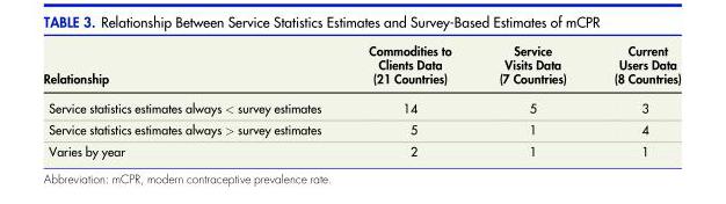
<table><thead><tr><td>Relationship</td><td>Commodities to Clients Data (21 Countries)</td><td>Service Visits Data (7 Countries)</td><td>Current Users Data (8 Countries)</td></tr></thead><tbody><tr><td>Service statistics estimates always &lt; survey estimates</td><td>14</td><td>5</td><td>3</td></tr><tr><td>Service statistics estimates always &gt; survey estimates</td><td>5</td><td>1</td><td>4</td></tr><tr><td>Varies by year</td><td>2</td><td>1</td><td>1</td></tr></tbody></table>